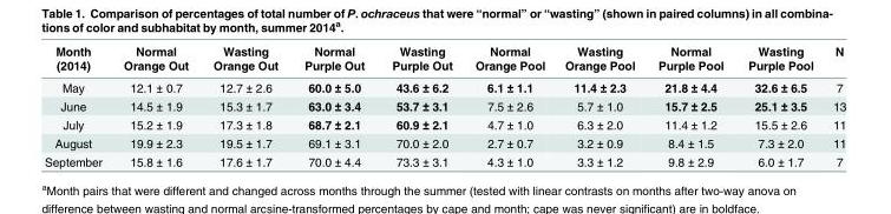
<table><thead><tr><td>Month (2014)</td><td>Normal Orange Out</td><td>Wasting Orange Out</td><td>Normal Purple Out</td><td>Wasting Purple Out</td><td>Normal Orange Pool</td><td>Wasting Orange Pool</td><td>Normal Purple Pool</td><td>Wasting Purple Pool</td><td>N</td></tr></thead><tbody><tr><td>May</td><td>12.1 ± 0.7</td><td>12.7 ± 2.6</td><td>60.0 ± 5.0</td><td>43.6 ± 6.2</td><td>6.1 ± 1.1</td><td>11.4 ± 2.3</td><td>21.8 ± 4.4</td><td>32.6 ± 6.5</td><td>7</td></tr><tr><td>June</td><td>14.5 ± 1.9</td><td>15.3 ± 1.7</td><td>63.0 ± 3.4</td><td>53.7 ± 3.1</td><td>7.5 ± 2.6</td><td>5.7 ± 1.0</td><td>15.7 ± 2.5</td><td>25.1 ± 3.5</td><td>13</td></tr><tr><td>July</td><td>15.2 ± 1.9</td><td>17.3 ± 1.8</td><td>68.7 ± 2.1</td><td>60.9 ± 2.1</td><td>4.7 ± 1.0</td><td>6.3 ± 2.0</td><td>11.4 ± 1.2</td><td>15.5 ± 2.6</td><td>11</td></tr><tr><td>August</td><td>19.9 ± 2.3</td><td>19.5 ± 1.7</td><td>69.1 ± 3.1</td><td>70.0 ± 2.0</td><td>2.7 ± 0.7</td><td>3.2 ± 0.9</td><td>8.4 ± 1.5</td><td>7.3 ± 2.0</td><td>11</td></tr><tr><td>September</td><td>15.8 ± 1.6</td><td>17.6 ± 1.7</td><td>70.0 ± 4.4</td><td>73.3 ± 3.1</td><td>4.3 ± 1.0</td><td>3.3 ± 1.2</td><td>9.8 ± 2.9</td><td>6.0 ± 1.7</td><td>7</td></tr></tbody></table>